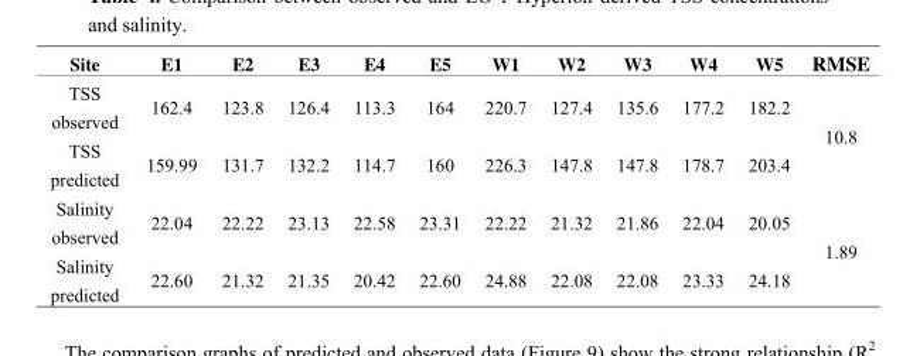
<table><thead><tr><td>Site</td><td>E1</td><td>E2</td><td>E3</td><td>E4</td><td>E5</td><td>W1</td><td>W2</td><td>W3</td><td>W4</td><td>W5</td><td>RMSE</td></tr></thead><tbody><tr><td>TSS observed</td><td>162.4</td><td>123.8</td><td>126.4</td><td>113.3</td><td>164</td><td>220.7</td><td>127.4</td><td>135.6</td><td>177.2</td><td>182.2</td><td rowspan="2">10.8</td></tr><tr><td>TSS predicted</td><td>159.99</td><td>131.7</td><td>132.2</td><td>114.7</td><td>160</td><td>226.3</td><td>147.8</td><td>147.8</td><td>178.7</td><td>203.4</td></tr><tr><td>Salinity observed</td><td>22.04</td><td>22.22</td><td>23.13</td><td>22.58</td><td>23.31</td><td>22.22</td><td>21.32</td><td>21.86</td><td>22.04</td><td>20.05</td><td rowspan="2">1.89</td></tr><tr><td>Salinity predicted</td><td>22.60</td><td>21.32</td><td>21.35</td><td>20.42</td><td>22.60</td><td>24.88</td><td>22.08</td><td>22.08</td><td>23.33</td><td>24.18</td></tr></tbody></table>